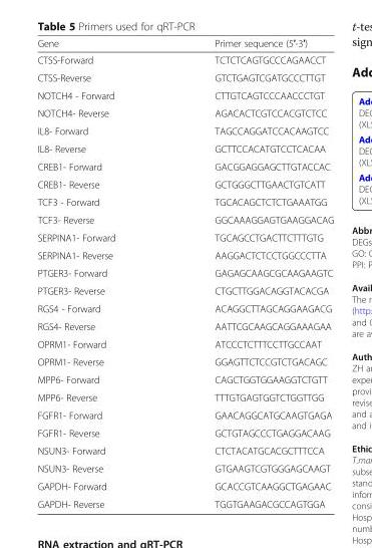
<table><thead><tr><td>Gene</td><td>Primer sequence (5′-3′)</td></tr></thead><tbody><tr><td>CTSS-Forward</td><td>TCTCTCAGTGCCCAGAACCT</td></tr><tr><td>CTSS-Reverse</td><td>GTCTGAGTCGATGCCCTTGT</td></tr><tr><td>NOTCH4 - Forward</td><td>CTTGTCAGTCCCAACCCTGT</td></tr><tr><td>NOTCH4- Reverse</td><td>AGACACTCGTCCACGTCTCC</td></tr><tr><td>IL8- Forward</td><td>TAGCCAGGATCCACAAGTCC</td></tr><tr><td>IL8- Reverse</td><td>GCTTCCACATGTCCTCACAA</td></tr><tr><td>CREB1- Forward</td><td>GACGGAGGAGCTTGTACCAC</td></tr><tr><td>CREB1- Reverse</td><td>GCTGGGCTTGAACTGTCATT</td></tr><tr><td>TCF3 - Forward</td><td>TGCACAGCTCTCTGAAATGG</td></tr><tr><td>TCF3- Reverse</td><td>GGCAAAGGAGTGAAGGACAG</td></tr><tr><td>SERPINA1- Forward</td><td>TGCAGCCTGACTTCTTTGTG</td></tr><tr><td>SERPINA1- Reverse</td><td>AAGGACTCTCCTGGCCCTTA</td></tr><tr><td>PTGER3- Forward</td><td>GAGAGCAAGCGCAAGAAGTC</td></tr><tr><td>PTGER3- Reverse</td><td>CTGCTTGGACAGGTACACGA</td></tr><tr><td>RGS4 - Forward</td><td>ACAGGCTTAGCAGGAAGACG</td></tr><tr><td>RGS4- Reverse</td><td>AATTCGCAAGCAGGAAAGAA</td></tr><tr><td>OPRM1- Forward</td><td>ATCCCTCTTTCCTTGCCAAT</td></tr><tr><td>OPRM1- Reverse</td><td>GGAGTTCTCCGTCTGACAGC</td></tr><tr><td>MPP6- Forward</td><td>CAGCTGGTGGAAGGTCTGTT</td></tr><tr><td>MPP6- Reverse</td><td>TTTGTGAGTGGTCTGGTTGG</td></tr><tr><td>FGFR1- Forward</td><td>GAACAGGCATGCAAGTGAGA</td></tr><tr><td>FGFR1- Reverse</td><td>GCTGTAGCCCTGAGGACAAG</td></tr><tr><td>NSUN3- Forward</td><td>CTCTACATGCACGCTTTCCA</td></tr><tr><td>NSUN3- Reverse</td><td>GTGAAGTCGTGGGAGCAAGT</td></tr><tr><td>GAPDH- Forward</td><td>GCACCGTCAAGGCTGAGAAC</td></tr><tr><td>GAPDH- Reverse</td><td>TGGTGAAGACGCCAGTGGA</td></tr></tbody></table>